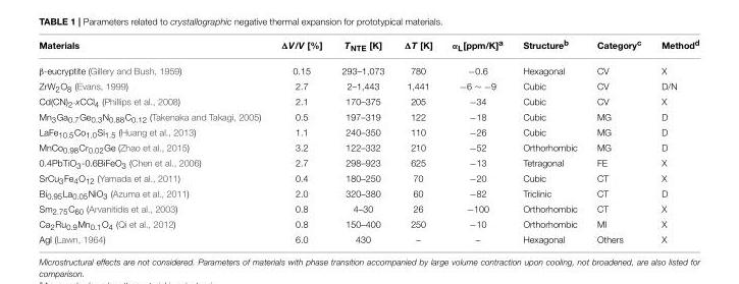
<table><thead><tr><td>Materials</td><td>ΔV/V [%]</td><td>T<sub>NTE</sub> [K]</td><td>ΔT [K]</td><td>α<sub>L</sub>[ppm/K]<sup>a</sup></td><td>Structure<sup>b</sup></td><td>Category<sup>c</sup></td><td>Method<sup>d</sup></td></tr></thead><tbody><tr><td>β-eucryptite (Gillery and Bush, 1959)</td><td>0.15</td><td>293–1,073</td><td>780</td><td>−0.6</td><td>Hexagonal</td><td>CV</td><td>X</td></tr><tr><td>ZrW<sub>2</sub>O<sub>8</sub> (Evans, 1999)</td><td>2.7</td><td>2–1,443</td><td>1,441</td><td>−6 ∼ −9</td><td>Cubic</td><td>CV</td><td>D/N</td></tr><tr><td>Cd(CN)<sub>2</sub>·xCCl<sub>4</sub> (Phillips et al., 2008)</td><td>2.1</td><td>170–375</td><td>205</td><td>−34</td><td>Cubic</td><td>CV</td><td>X</td></tr><tr><td>Mn<sub>3</sub>Ga<sub>0.7</sub>Ge<sub>0.3</sub>N<sub>0.88</sub>C<sub>0.12</sub> (Takenaka and Takagi, 2005)</td><td>0.5</td><td>197–319</td><td>122</td><td>−18</td><td>Cubic</td><td>MG</td><td>D</td></tr><tr><td>LaFe<sub>10.5</sub>Co<sub>1.0</sub>Si<sub>1.5</sub> (Huang et al., 2013)</td><td>1.1</td><td>240–350</td><td>110</td><td>−26</td><td>Cubic</td><td>MG</td><td>D</td></tr><tr><td>MnCo<sub>0.98</sub>Cr<sub>0.02</sub>Ge (Zhao et al., 2015)</td><td>3.2</td><td>122–332</td><td>210</td><td>−52</td><td>Orthorhombic</td><td>MG</td><td>D</td></tr><tr><td>0.4PbTiO<sub>3</sub>-0.6BiFeO<sub>3</sub> (Chen et al., 2006)</td><td>2.7</td><td>298–923</td><td>625</td><td>−13</td><td>Tetragonal</td><td>FE</td><td>X</td></tr><tr><td>SrCu<sub>3</sub>Fe<sub>4</sub>O<sub>12</sub> (Yamada et al., 2011)</td><td>0.4</td><td>180–250</td><td>70</td><td>−20</td><td>Cubic</td><td>CT</td><td>X</td></tr><tr><td>Bi<sub>0.95</sub>La<sub>0.05</sub>NiO<sub>3</sub> (Azuma et al., 2011)</td><td>2.0</td><td>320–380</td><td>60</td><td>−82</td><td>Triclinic</td><td>CT</td><td>D</td></tr><tr><td>Sm<sub>2.75</sub>C<sub>60</sub> (Arvanitidis et al., 2003)</td><td>0.8</td><td>4–30</td><td>26</td><td>−100</td><td>Orthorhombic</td><td>CT</td><td>X</td></tr><tr><td>Ca<sub>2</sub>Ru<sub>0.9</sub>Mn<sub>0.1</sub>O<sub>4</sub> (Qi et al., 2012)</td><td>0.8</td><td>150–400</td><td>250</td><td>−10</td><td>Orthorhombic</td><td>MI</td><td>X</td></tr><tr><td>AgI (Lawn, 1964)</td><td>6.0</td><td>430</td><td>–</td><td>–</td><td>Hexagonal</td><td>Others</td><td>X</td></tr></tbody></table>